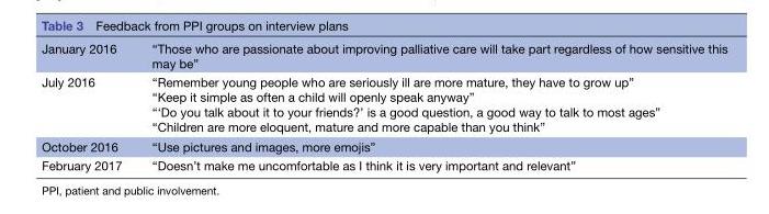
<table><tbody><tr><td>January 2016</td><td>“Those who are passionate about improving palliative care will take part regardless of how sensitive this may be”</td></tr><tr><td>July 2016</td><td>“Remember young people who are seriously ill are more mature, they have to grow up” “Keep it simple as often a child will openly speak anyway” “‘Do you talk about it to your friends?’ is a good question, a good way to talk to most ages” “Children are more eloquent, mature and more capable than you think”</td></tr><tr><td>October 2016</td><td>“Use pictures and images, more emojis”</td></tr><tr><td>February 2017</td><td>“Doesn’t make me uncomfortable as I think it is very important and relevant”</td></tr></tbody></table>